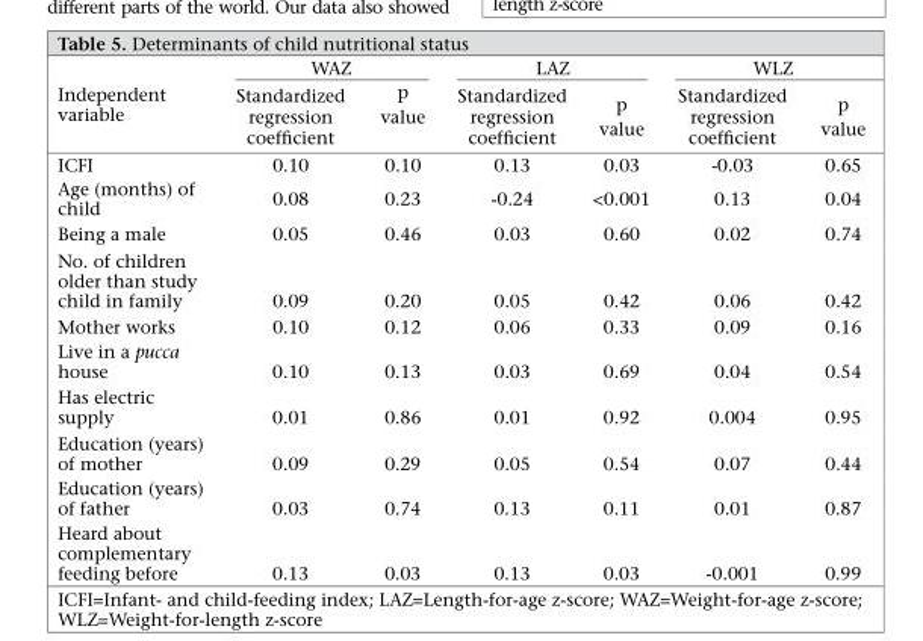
<table><thead><tr><td rowspan="2">Independent variable</td><td colspan="2">WAZ</td><td colspan="2">LAZ</td><td colspan="2">WLZ</td></tr><tr><td>Standardized regression coefficient</td><td>p value</td><td>Standardized regression coefficient</td><td>p value</td><td>Standardized regression coefficient</td><td>p value</td></tr></thead><tbody><tr><td>ICFI</td><td>0.10</td><td>0.10</td><td>0.13</td><td>0.03</td><td>-0.03</td><td>0.65</td></tr><tr><td>Age (months) of child</td><td>0.08</td><td>0.23</td><td>-0.24</td><td>&lt;0.001</td><td>0.13</td><td>0.04</td></tr><tr><td>Being a male</td><td>0.05</td><td>0.46</td><td>0.03</td><td>0.60</td><td>0.02</td><td>0.74</td></tr><tr><td>No. of children older than study child in family</td><td>0.09</td><td>0.20</td><td>0.05</td><td>0.42</td><td>0.06</td><td>0.42</td></tr><tr><td>Mother works</td><td>0.10</td><td>0.12</td><td>0.06</td><td>0.33</td><td>0.09</td><td>0.16</td></tr><tr><td>Live in a pucca house</td><td>0.10</td><td>0.13</td><td>0.03</td><td>0.69</td><td>0.04</td><td>0.54</td></tr><tr><td>Has electric supply</td><td>0.01</td><td>0.86</td><td>0.01</td><td>0.92</td><td>0.004</td><td>0.95</td></tr><tr><td>Education (years) of mother</td><td>0.09</td><td>0.29</td><td>0.05</td><td>0.54</td><td>0.07</td><td>0.44</td></tr><tr><td>Education (years) of father</td><td>0.03</td><td>0.74</td><td>0.13</td><td>0.11</td><td>0.01</td><td>0.87</td></tr><tr><td>Heard about complementary feeding before</td><td>0.13</td><td>0.03</td><td>0.13</td><td>0.03</td><td>-0.001</td><td>0.99</td></tr></tbody></table>